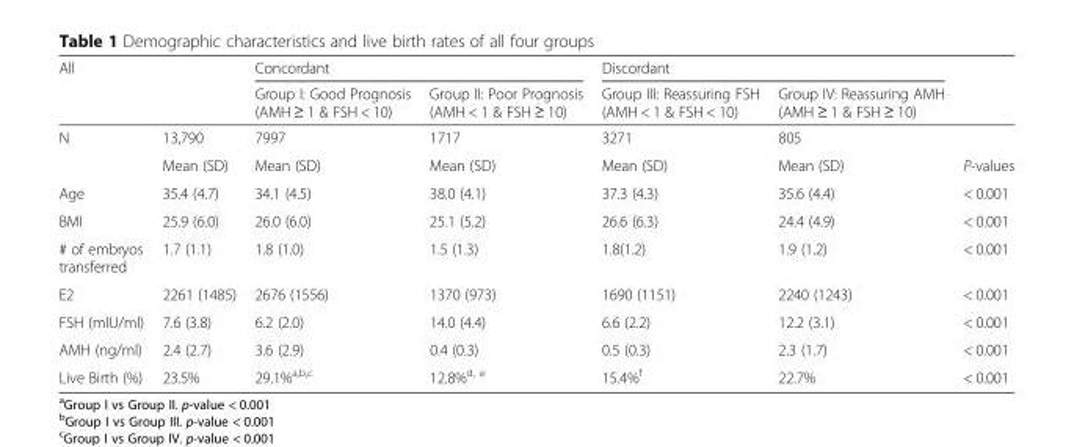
<table><thead><tr><td rowspan="2" colspan="2">All</td><td colspan="2">Concordant</td><td colspan="2">Discordant</td><td rowspan="3"></td></tr><tr><td rowspan="2">Group I: Good Prognosis (AMH ≥ 1 &amp; FSH &lt; 10) 7997</td><td rowspan="2">Group II: Poor Prognosis (AMH &lt; 1 &amp; FSH ≥ 10) 1717</td><td rowspan="2">Group III: Reassuring FSH (AMH &lt; 1 &amp; FSH &lt; 10) 3271</td><td rowspan="2">Group IV: Reassuring AMH (AMH ≥ 1 &amp; FSH ≥ 10) 805</td></tr><tr><td>N</td><td>13,790</td></tr></thead><tbody><tr><td></td><td>Mean (SD)</td><td>Mean (SD)</td><td>Mean (SD)</td><td>Mean (SD)</td><td>Mean (SD)</td><td>P-values</td></tr><tr><td>Age</td><td>35.4 (4.7)</td><td>34.1 (4.5)</td><td>38.0 (4.1)</td><td>37.3 (4.3)</td><td>35.6 (4.4)</td><td>&lt; 0.001</td></tr><tr><td>BMI</td><td>25.9 (6.0)</td><td>26.0 (6.0)</td><td>25.1 (5.2)</td><td>26.6 (6.3)</td><td>24.4 (4.9)</td><td>&lt; 0.001</td></tr><tr><td># of embryos transferred</td><td>1.7 (1.1)</td><td>1.8 (1.0)</td><td>1.5 (1.3)</td><td>1.8(1.2)</td><td>1.9 (1.2)</td><td>&lt; 0.001</td></tr><tr><td>E2</td><td>2261 (1485)</td><td>2676 (1556)</td><td>1370 (973)</td><td>1690 (1151)</td><td>2240 (1243)</td><td>&lt; 0.001</td></tr><tr><td>FSH (mIU/ml)</td><td>7.6 (3.8)</td><td>6.2 (2.0)</td><td>14.0 (4.4)</td><td>6.6 (2.2)</td><td>12.2 (3.1)</td><td>&lt; 0.001</td></tr><tr><td>AMH (ng/ml)</td><td>2.4 (2.7)</td><td>3.6 (2.9)</td><td>0.4 (0.3)</td><td>0.5 (0.3)</td><td>2.3 (1.7)</td><td>&lt; 0.001</td></tr><tr><td>Live Birth (%)</td><td>23.5%</td><td>29.1%<sup>a,b,c</sup></td><td>12.8%<sup>d, e</sup></td><td>15.4%<sup>f</sup></td><td>22.7%</td><td>&lt; 0.001</td></tr></tbody></table>